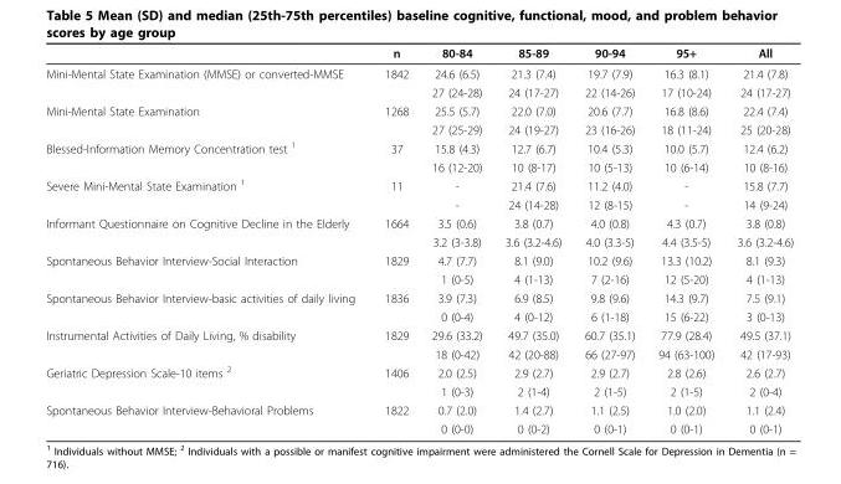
<table><thead><tr><td></td><td>n</td><td>80-84</td><td>85-89</td><td>90-94</td><td>95+</td><td>All</td></tr></thead><tbody><tr><td rowspan="2">Mini-Mental State Examination (MMSE) or converted-MMSE</td><td>1842</td><td>24.6 (6.5)</td><td>21.3 (7.4)</td><td>19.7 (7.9)</td><td>16.3 (8.1)</td><td>21.4 (7.8)</td></tr><tr><td></td><td>27 (24-28)</td><td>24 (17-27)</td><td>22 (14-26)</td><td>17 (10-24)</td><td>24 (17-27)</td></tr><tr><td rowspan="2">Mini-Mental State Examination</td><td>1268</td><td>25.5 (5.7)</td><td>22.0 (7.0)</td><td>20.6 (7.7)</td><td>16.8 (8.6)</td><td>22.4 (7.4)</td></tr><tr><td></td><td>27 (25-29)</td><td>24 (19-27)</td><td>23 (16-26)</td><td>18 (11-24)</td><td>25 (20-28)</td></tr><tr><td rowspan="2">Blessed-Information Memory Concentration test <sup>1</sup></td><td>37</td><td>15.8 (4.3)</td><td>12.7 (6.7)</td><td>10.4 (5.3)</td><td>10.0 (5.7)</td><td>12.4 (6.2)</td></tr><tr><td></td><td>16 (12-20)</td><td>10 (8-17)</td><td>10 (5-13)</td><td>10 (6-14)</td><td>10 (8-16)</td></tr><tr><td rowspan="2">Severe Mini-Mental State Examination <sup>1</sup></td><td>11</td><td>-</td><td>21.4 (7.6)</td><td>11.2 (4.0)</td><td>-</td><td>15.8 (7.7)</td></tr><tr><td></td><td>-</td><td>24 (14-28)</td><td>12 (8-15)</td><td>-</td><td>14 (9-24)</td></tr><tr><td rowspan="2">Informant Questionnaire on Cognitive Decline in the Elderly</td><td>1664</td><td>3.5 (0.6)</td><td>3.8 (0.7)</td><td>4.0 (0.8)</td><td>4.3 (0.7)</td><td>3.8 (0.8)</td></tr><tr><td></td><td>3.2 (3-3.8)</td><td>3.6 (3.2-4.6)</td><td>4.0 (3.3-5)</td><td>4.4 (3.5-5)</td><td>3.6 (3.2-4.6)</td></tr><tr><td rowspan="2">Spontaneous Behavior Interview-Social Interaction</td><td>1829</td><td>4.7 (7.7)</td><td>8.1 (9.0)</td><td>10.2 (9.6)</td><td>13.3 (10.2)</td><td>8.1 (9.3)</td></tr><tr><td></td><td>1 (0-5)</td><td>4 (1-13)</td><td>7 (2-16)</td><td>12 (5-20)</td><td>4 (1-13)</td></tr><tr><td rowspan="2">Spontaneous Behavior Interview-basic activities of daily living</td><td>1836</td><td>3.9 (7.3)</td><td>6.9 (8.5)</td><td>9.8 (9.6)</td><td>14.3 (9.7)</td><td>7.5 (9.1)</td></tr><tr><td></td><td>0 (0-4)</td><td>4 (0-12)</td><td>6 (1-18)</td><td>15 (6-22)</td><td>3 (0-13)</td></tr><tr><td rowspan="2">Instrumental Activities of Daily Living, % disability</td><td>1829</td><td>29.6 (33.2)</td><td>49.7 (35.0)</td><td>60.7 (35.1)</td><td>77.9 (28.4)</td><td>49.5 (37.1)</td></tr><tr><td></td><td>18 (0-42)</td><td>42 (20-88)</td><td>66 (27-97)</td><td>94 (63-100)</td><td>42 (17-93)</td></tr><tr><td rowspan="2">Geriatric Depression Scale-10 items <sup>2</sup></td><td>1406</td><td>2.0 (2.5)</td><td>2.9 (2.7)</td><td>2.9 (2.7)</td><td>2.8 (2.6)</td><td>2.6 (2.7)</td></tr><tr><td></td><td>1 (0-3)</td><td>2 (1-4)</td><td>2 (1-5)</td><td>2 (1-5)</td><td>2 (0-4)</td></tr><tr><td rowspan="2">Spontaneous Behavior Interview-Behavioral Problems</td><td>1822</td><td>0.7 (2.0)</td><td>1.4 (2.7)</td><td>1.1 (2.5)</td><td>1.0 (2.0)</td><td>1.1 (2.4)</td></tr><tr><td></td><td>0 (0-0)</td><td>0 (0-2)</td><td>0 (0-1)</td><td>0 (0-1)</td><td>0 (0-1)</td></tr></tbody></table>